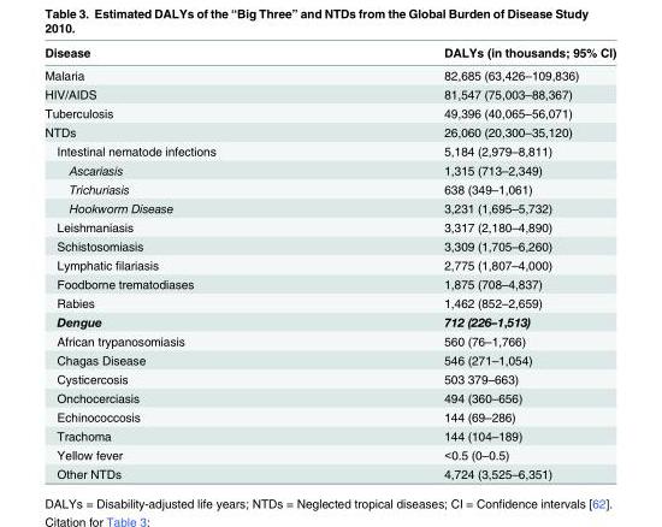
<table><thead><tr><td>Disease</td><td>DALYs (in thousands; 95% CI)</td></tr></thead><tbody><tr><td>Malaria</td><td>82,685 (63,426–109,836)</td></tr><tr><td>HIV/AIDS</td><td>81,547 (75,003–88,367)</td></tr><tr><td>Tuberculosis</td><td>49,396 (40,065–56,071)</td></tr><tr><td>NTDs</td><td>26,060 (20,300–35,120)</td></tr><tr><td>Intestinal nematode infections</td><td>5,184 (2,979–8,811)</td></tr><tr><td>Ascariasis</td><td>1,315 (713–2,349)</td></tr><tr><td>Trichuriasis</td><td>638 (349–1,061)</td></tr><tr><td>Hookworm Disease</td><td>3,231 (1,695–5,732)</td></tr><tr><td>Leishmaniasis</td><td>3,317 (2,180–4,890)</td></tr><tr><td>Schistosomiasis</td><td>3,309 (1,705–6,260)</td></tr><tr><td>Lymphatic filariasis</td><td>2,775 (1,807–4,000)</td></tr><tr><td>Foodborne trematodiases</td><td>1,875 (708–4,837)</td></tr><tr><td>Rabies</td><td>1,462 (852–2,659)</td></tr><tr><td>Dengue</td><td>712 (226–1,513)</td></tr><tr><td>African trypanosomiasis</td><td>560 (76–1,766)</td></tr><tr><td>Chagas Disease</td><td>546 (271–1,054)</td></tr><tr><td>Cysticercosis</td><td>503 379–663)</td></tr><tr><td>Onchocerciasis</td><td>494 (360–656)</td></tr><tr><td>Echinococcosis</td><td>144 (69–286)</td></tr><tr><td>Trachoma</td><td>144 (104–189)</td></tr><tr><td>Yellow fever</td><td>&lt;0.5 (0–0.5)</td></tr><tr><td>Other NTDs</td><td>4,724 (3,525–6,351)</td></tr></tbody></table>